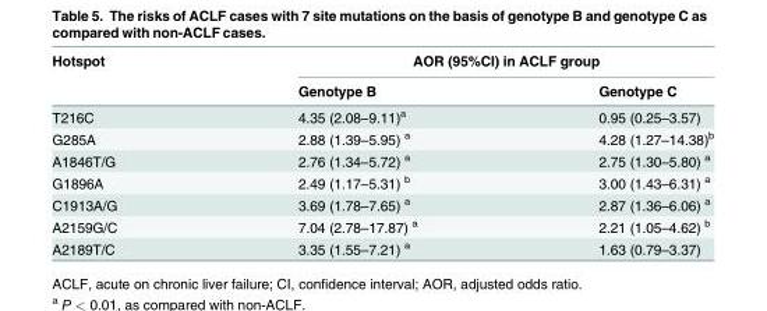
<table><thead><tr><td rowspan="2">Hotspot</td><td colspan="2">AOR (95%CI) in ACLF group</td></tr><tr><td>Genotype B</td><td>Genotype C</td></tr></thead><tbody><tr><td>T216C</td><td>4.35 (2.08–9.11)<sup>a</sup></td><td>0.95 (0.25–3.57)</td></tr><tr><td>G285A</td><td>2.88 (1.39–5.95) <sup>a</sup></td><td>4.28 (1.27–14.38)<sup>b</sup></td></tr><tr><td>A1846T/G</td><td>2.76 (1.34–5.72) <sup>a</sup></td><td>2.75 (1.30–5.80) <sup>a</sup></td></tr><tr><td>G1896A</td><td>2.49 (1.17–5.31) <sup>b</sup></td><td>3.00 (1.43–6.31) <sup>a</sup></td></tr><tr><td>C1913A/G</td><td>3.69 (1.78–7.65) <sup>a</sup></td><td>2.87 (1.36–6.06) <sup>a</sup></td></tr><tr><td>A2159G/C</td><td>7.04 (2.78–17.87) <sup>a</sup></td><td>2.21 (1.05–4.62) <sup>b</sup></td></tr><tr><td>A2189T/C</td><td>3.35 (1.55–7.21) <sup>a</sup></td><td>1.63 (0.79–3.37)</td></tr></tbody></table>